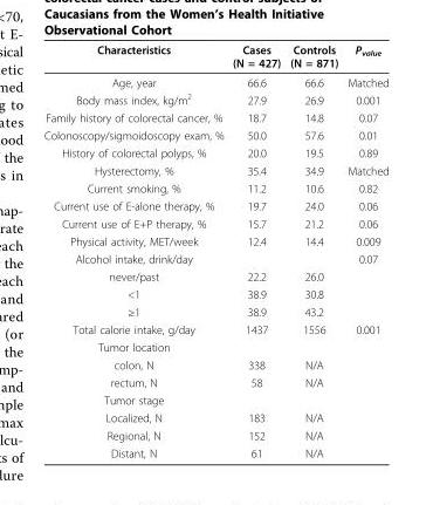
<table><thead><tr><td>Characteristics</td><td>Cases (N = 427)</td><td>Controls (N = 871)</td><td>P<sub>value</sub></td></tr></thead><tbody><tr><td>Age, year</td><td>66.6</td><td>66.6</td><td>Matched</td></tr><tr><td>Body mass index, kg/m<sup>2</sup></td><td>27.9</td><td>26.9</td><td>0.001</td></tr><tr><td>Family history of colorectal cancer, %</td><td>18.7</td><td>14.8</td><td>0.07</td></tr><tr><td>Colonoscopy/sigmoidoscopy exam, %</td><td>50.0</td><td>57.6</td><td>0.01</td></tr><tr><td>History of colorectal polyps, %</td><td>20.0</td><td>19.5</td><td>0.89</td></tr><tr><td>Hysterectomy, %</td><td>35.4</td><td>34.9</td><td>Matched</td></tr><tr><td>Current smoking, %</td><td>11.2</td><td>10.6</td><td>0.82</td></tr><tr><td>Current use of E-alone therapy, %</td><td>19.7</td><td>24.0</td><td>0.06</td></tr><tr><td>Current use of E+P therapy, %</td><td>15.7</td><td>21.2</td><td>0.06</td></tr><tr><td>Physical activity, MET/week</td><td>12.4</td><td>14.4</td><td>0.009</td></tr><tr><td>Alcohol intake, drink/day</td><td></td><td></td><td>0.07</td></tr><tr><td>never/past</td><td>22.2</td><td>26.0</td><td></td></tr><tr><td>&lt;1</td><td>38.9</td><td>30.8</td><td></td></tr><tr><td>≥1</td><td>38.9</td><td>43.2</td><td></td></tr><tr><td>Total calorie intake, g/day</td><td>1437</td><td>1556</td><td>0.001</td></tr><tr><td colspan="4">Tumor location</td></tr><tr><td>colon, N</td><td>338</td><td>N/A</td><td></td></tr><tr><td>rectum, N</td><td>58</td><td>N/A</td><td></td></tr><tr><td colspan="4">Tumor stage</td></tr><tr><td>Localized, N</td><td>183</td><td>N/A</td><td></td></tr><tr><td>Regional, N</td><td>152</td><td>N/A</td><td></td></tr><tr><td>Distant, N</td><td>61</td><td>N/A</td><td></td></tr></tbody></table>